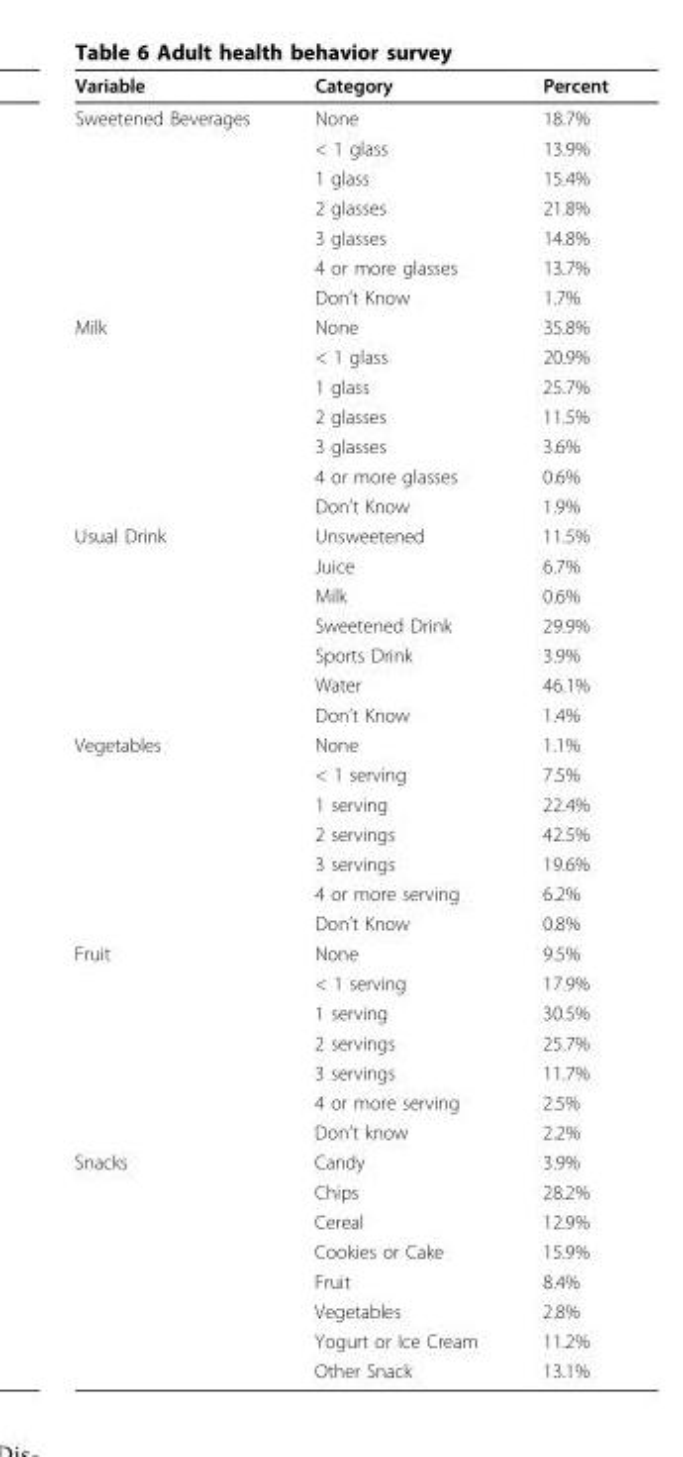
<table><thead><tr><td>Variable</td><td>Category</td><td>Percent</td></tr></thead><tbody><tr><td rowspan="7">Sweetened Beverages</td><td>None</td><td>18.7%</td></tr><tr><td>&lt; 1 glass</td><td>13.9%</td></tr><tr><td>1 glass</td><td>15.4%</td></tr><tr><td>2 glasses</td><td>21.8%</td></tr><tr><td>3 glasses</td><td>14.8%</td></tr><tr><td>4 or more glasses</td><td>13.7%</td></tr><tr><td>Don’t Know</td><td>1.7%</td></tr><tr><td rowspan="7">Milk</td><td>None</td><td>35.8%</td></tr><tr><td>&lt; 1 glass</td><td>20.9%</td></tr><tr><td>1 glass</td><td>25.7%</td></tr><tr><td>2 glasses</td><td>11.5%</td></tr><tr><td>3 glasses</td><td>3.6%</td></tr><tr><td>4 or more glasses</td><td>0.6%</td></tr><tr><td>Don’t Know</td><td>1.9%</td></tr><tr><td rowspan="7">Usual Drink</td><td>Unsweetened</td><td>11.5%</td></tr><tr><td>Juice</td><td>6.7%</td></tr><tr><td>Milk</td><td>0.6%</td></tr><tr><td>Sweetened Drink</td><td>29.9%</td></tr><tr><td>Sports Drink</td><td>3.9%</td></tr><tr><td>Water</td><td>46.1%</td></tr><tr><td>Don’t Know</td><td>1.4%</td></tr><tr><td rowspan="7">Vegetables</td><td>None</td><td>1.1%</td></tr><tr><td>&lt; 1 serving</td><td>7.5%</td></tr><tr><td>1 serving</td><td>22.4%</td></tr><tr><td>2 servings</td><td>42.5%</td></tr><tr><td>3 servings</td><td>19.6%</td></tr><tr><td>4 or more serving</td><td>6.2%</td></tr><tr><td>Don’t Know</td><td>0.8%</td></tr><tr><td rowspan="7">Fruit</td><td>None</td><td>9.5%</td></tr><tr><td>&lt; 1 serving</td><td>17.9%</td></tr><tr><td>1 serving</td><td>30.5%</td></tr><tr><td>2 servings</td><td>25.7%</td></tr><tr><td>3 servings</td><td>11.7%</td></tr><tr><td>4 or more serving</td><td>2.5%</td></tr><tr><td>Don’t know</td><td>2.2%</td></tr><tr><td rowspan="8">Snacks</td><td>Candy</td><td>3.9%</td></tr><tr><td>Chips</td><td>28.2%</td></tr><tr><td>Cereal</td><td>12.9%</td></tr><tr><td>Cookies or Cake</td><td>15.9%</td></tr><tr><td>Fruit</td><td>8.4%</td></tr><tr><td>Vegetables</td><td>2.8%</td></tr><tr><td>Yogurt or Ice Cream</td><td>11.2%</td></tr><tr><td>Other Snack</td><td>13.1%</td></tr></tbody></table>